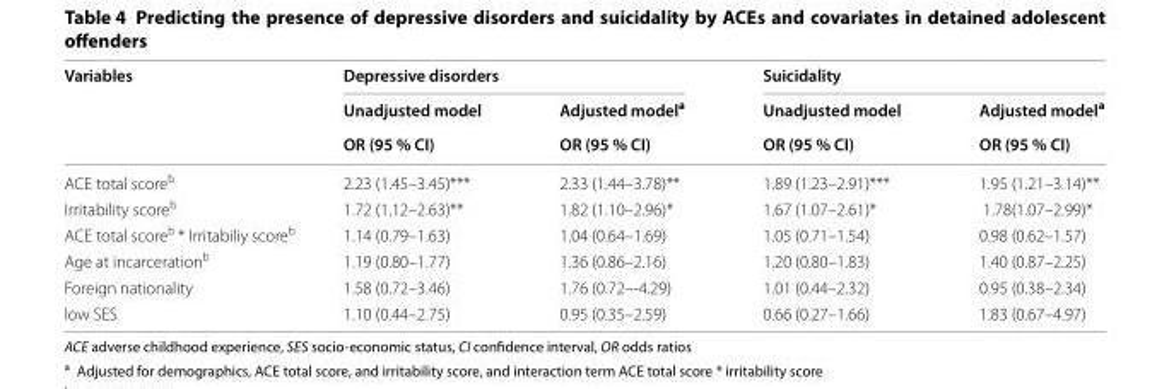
<table><thead><tr><td rowspan="3">Variables</td><td colspan="2">Depressive disorders</td><td colspan="2">Suicidality</td></tr><tr><td rowspan="2">Unadjusted model OR (95 % CI)</td><td rowspan="2">Adjusted model<sup>a</sup> OR (95 % CI)</td><td rowspan="2">Unadjusted model OR (95 % CI)</td><td rowspan="2">Adjusted model<sup>a</sup> OR (95 % CI)</td></tr><tr></tr></thead><tbody><tr><td>ACE total score<sup>b</sup></td><td>2.23 (1.45–3.45)***</td><td>2.33 (1.44–3.78)**</td><td>1.89 (1.23–2.91)***</td><td>1.95 (1.21–3.14)**</td></tr><tr><td>Irritability score<sup>b</sup></td><td>1.72 (1.12–2.63)**</td><td>1.82 (1.10–2.96)*</td><td>1.67 (1.07–2.61)*</td><td>1.78(1.07–2.99)*</td></tr><tr><td>ACE total score<sup>b</sup> * Irritabiliy score<sup>b</sup></td><td>1.14 (0.79–1.63)</td><td>1.04 (0.64–1.69)</td><td>1.05 (0.71–1.54)</td><td>0.98 (0.62–1.57)</td></tr><tr><td>Age at incarceration<sup>b</sup></td><td>1.19 (0.80–1.77)</td><td>1.36 (0.86–2.16)</td><td>1.20 (0.80–1.83)</td><td>1.40 (0.87–2.25)</td></tr><tr><td>Foreign nationality</td><td>1.58 (0.72–3.46)</td><td>1.76 (0.72–‑4.29)</td><td>1.01 (0.44–2.32)</td><td>0.95 (0.38–2.34)</td></tr><tr><td>low SES</td><td>1.10 (0.44–2.75)</td><td>0.95 (0.35–2.59)</td><td>0.66 (0.27–1.66)</td><td>1.83 (0.67–4.97)</td></tr></tbody></table>